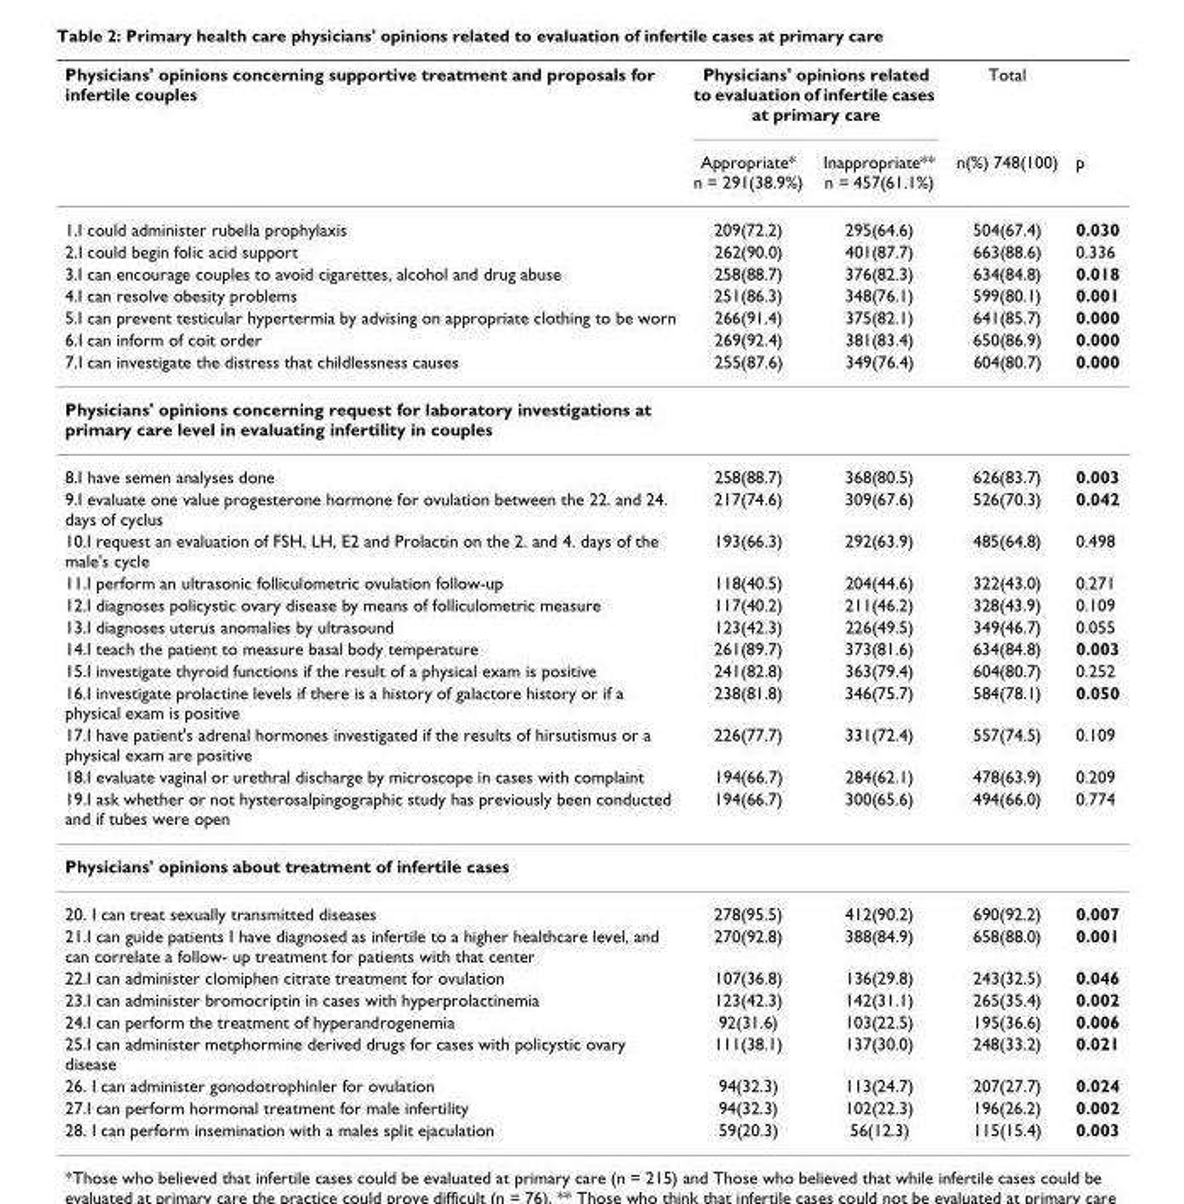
<table><thead><tr><td rowspan="2">Physicians&#x27; opinions concerning supportive treatment and proposals for infertile couples</td><td colspan="2">Physicians&#x27; opinions related to evaluation of infertile cases at primary care</td><td rowspan="2">Total n(%) 748(100)</td><td rowspan="2">p</td></tr><tr><td>Appropriate* n = 291(38.9%)</td><td>Inappropriate** n = 457(61.1%)</td></tr></thead><tbody><tr><td>1.I could administer rubella prophylaxis</td><td>209(72.2)</td><td>295(64.6)</td><td>504(67.4)</td><td>0.030</td></tr><tr><td>2.I could begin folic acid support</td><td>262(90.0)</td><td>401(87.7)</td><td>663(88.6)</td><td>0.336</td></tr><tr><td>3.I can encourage couples to avoid cigarettes, alcohol and drug abuse</td><td>258(88.7)</td><td>376(82.3)</td><td>634(84.8)</td><td>0.018</td></tr><tr><td>4.I can resolve obesity problems</td><td>251(86.3)</td><td>348(76.1)</td><td>599(80.1)</td><td>0.001</td></tr><tr><td>5.I can prevent testicular hypertermia by advising on appropriate clothing to be worn</td><td>266(91.4)</td><td>375(82.1)</td><td>641(85.7)</td><td>0.000</td></tr><tr><td>6.I can inform of coit order</td><td>269(92.4)</td><td>381(83.4)</td><td>650(86.9)</td><td>0.000</td></tr><tr><td>7.I can investigate the distress that childlessness causes</td><td>255(87.6)</td><td>349(76.4)</td><td>604(80.7)</td><td>0.000</td></tr><tr><td colspan="5">Physicians&#x27; opinions concerning request for laboratory investigations at primary care level in evaluating infertility in couples</td></tr><tr><td>8.I have semen analyses done</td><td>258(88.7)</td><td>368(80.5)</td><td>626(83.7)</td><td>0.003</td></tr><tr><td>9.I evaluate one value progesterone hormone for ovulation between the 22. and 24. days of cyclus</td><td>217(74.6)</td><td>309(67.6)</td><td>526(70.3)</td><td>0.042</td></tr><tr><td>10.I request an evaluation of FSH, LH, E2 and Prolactin on the 2. and 4. days of the male&#x27;s cycle</td><td>193(66.3)</td><td>292(63.9)</td><td>485(64.8)</td><td>0.498</td></tr><tr><td>11.I perform an ultrasonic folliculometric ovulation follow-up</td><td>118(40.5)</td><td>204(44.6)</td><td>322(43.0)</td><td>0.271</td></tr><tr><td>12.I diagnoses policystic ovary disease by means of folliculometric measure</td><td>117(40.2)</td><td>211(46.2)</td><td>328(43.9)</td><td>0.109</td></tr><tr><td>13.I diagnoses uterus anomalies by ultrasound</td><td>123(42.3)</td><td>226(49.5)</td><td>349(46.7)</td><td>0.055</td></tr><tr><td>14.I teach the patient to measure basal body temperature</td><td>261(89.7)</td><td>373(81.6)</td><td>634(84.8)</td><td>0.003</td></tr><tr><td>15.I investigate thyroid functions if the result of a physical exam is positive</td><td>241(82.8)</td><td>363(79.4)</td><td>604(80.7)</td><td>0.252</td></tr><tr><td>16.I investigate prolactine levels if there is a history of galactore history or if a physical exam is positive</td><td>238(81.8)</td><td>346(75.7)</td><td>584(78.1)</td><td>0.050</td></tr><tr><td>17.I have patient&#x27;s adrenal hormones investigated if the results of hirsutismus or a physical exam are positive</td><td>226(77.7)</td><td>331(72.4)</td><td>557(74.5)</td><td>0.109</td></tr><tr><td>18.I evaluate vaginal or urethral discharge by microscope in cases with complaint</td><td>194(66.7)</td><td>284(62.1)</td><td>478(63.9)</td><td>0.209</td></tr><tr><td>19.I ask whether or not hysterosalpingographic study has previously been conducted and if tubes were open</td><td>194(66.7)</td><td>300(65.6)</td><td>494(66.0)</td><td>0.774</td></tr><tr><td colspan="5">Physicians&#x27; opinions about treatment of infertile cases</td></tr><tr><td>20. I can treat sexually transmitted diseases</td><td>278(95.5)</td><td>412(90.2)</td><td>690(92.2)</td><td>0.007</td></tr><tr><td>21.I can guide patients I have diagnosed as infertile to a higher healthcare level, and can correlate a follow- up treatment for patients with that center</td><td>270(92.8)</td><td>388(84.9)</td><td>658(88.0)</td><td>0.001</td></tr><tr><td>22.I can administer clomiphen citrate treatment for ovulation</td><td>107(36.8)</td><td>136(29.8)</td><td>243(32.5)</td><td>0.046</td></tr><tr><td>23.I can administer bromocriptin in cases with hyperprolactinemia</td><td>123(42.3)</td><td>142(31.1)</td><td>265(35.4)</td><td>0.002</td></tr><tr><td>24.I can perform the treatment of hyperandrogenemia</td><td>92(31.6)</td><td>103(22.5)</td><td>195(36.6)</td><td>0.006</td></tr><tr><td>25.I can administer metphormine derived drugs for cases with policystic ovary disease</td><td>111(38.1)</td><td>137(30.0)</td><td>248(33.2)</td><td>0.021</td></tr><tr><td>26. I can administer gonodotrophinler for ovulation</td><td>94(32.3)</td><td>113(24.7)</td><td>207(27.7)</td><td>0.024</td></tr><tr><td>27.I can perform hormonal treatment for male infertility</td><td>94(32.3)</td><td>102(22.3)</td><td>196(26.2)</td><td>0.002</td></tr><tr><td>28. I can perform insemination with a males split ejaculation</td><td>59(20.3)</td><td>56(12.3)</td><td>115(15.4)</td><td>0.003</td></tr></tbody></table>